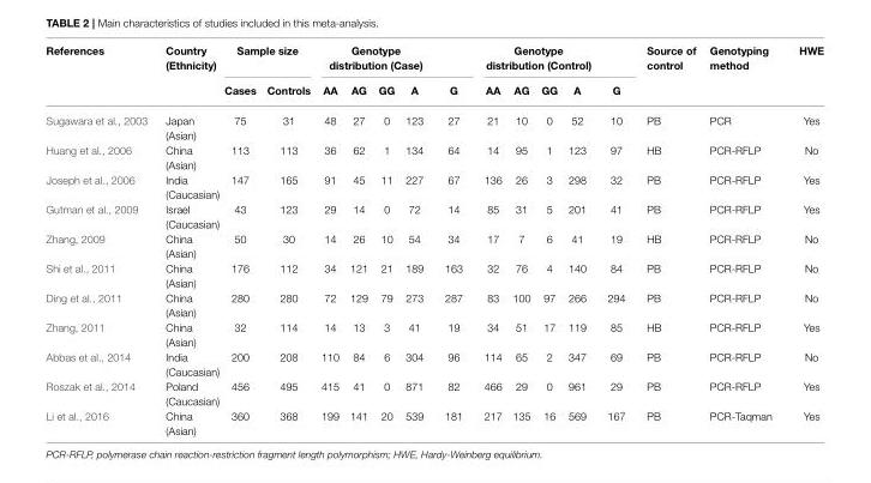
<table><thead><tr><td rowspan="2">References</td><td rowspan="2">Country (Ethnicity)</td><td colspan="2">Sample size</td><td colspan="5">Genotype distribution (Case)</td><td colspan="5">Genotype distribution (Control)</td><td rowspan="2">Source of control</td><td rowspan="2">Genotyping method</td><td rowspan="2">HWE</td></tr><tr><td>Cases</td><td>Controls</td><td>AA</td><td>AG</td><td>GG</td><td>A</td><td>G</td><td>AA</td><td>AG</td><td>GG</td><td>A</td><td>G</td></tr></thead><tbody><tr><td>Sugawara et al., 2003</td><td>Japan (Asian)</td><td>75</td><td>31</td><td>48</td><td>27</td><td>0</td><td>123</td><td>27</td><td>21</td><td>10</td><td>0</td><td>52</td><td>10</td><td>PB</td><td>PCR</td><td>Yes</td></tr><tr><td>Huang et al., 2006</td><td>China (Asian)</td><td>113</td><td>113</td><td>36</td><td>62</td><td>1</td><td>134</td><td>64</td><td>14</td><td>95</td><td>1</td><td>123</td><td>97</td><td>HB</td><td>PCR-RFLP</td><td>No</td></tr><tr><td>Joseph et al., 2006</td><td>India (Caucasian)</td><td>147</td><td>165</td><td>91</td><td>45</td><td>11</td><td>227</td><td>67</td><td>136</td><td>26</td><td>3</td><td>298</td><td>32</td><td>PB</td><td>PCR-RFLP</td><td>Yes</td></tr><tr><td>Gutman et al., 2009</td><td>Israel (Caucasian)</td><td>43</td><td>123</td><td>29</td><td>14</td><td>0</td><td>72</td><td>14</td><td>85</td><td>31</td><td>5</td><td>201</td><td>41</td><td>PB</td><td>PCR-RFLP</td><td>Yes</td></tr><tr><td>Zhang, 2009</td><td>China (Asian)</td><td>50</td><td>30</td><td>14</td><td>26</td><td>10</td><td>54</td><td>34</td><td>17</td><td>7</td><td>6</td><td>41</td><td>19</td><td>HB</td><td>PCR-RFLP</td><td>No</td></tr><tr><td>Shi et al., 2011</td><td>China (Asian)</td><td>176</td><td>112</td><td>34</td><td>121</td><td>21</td><td>189</td><td>163</td><td>32</td><td>76</td><td>4</td><td>140</td><td>84</td><td>PB</td><td>PCR-RFLP</td><td>No</td></tr><tr><td>Ding et al., 2011</td><td>China (Asian)</td><td>280</td><td>280</td><td>72</td><td>129</td><td>79</td><td>273</td><td>287</td><td>83</td><td>100</td><td>97</td><td>266</td><td>294</td><td>PB</td><td>PCR-RFLP</td><td>No</td></tr><tr><td>Zhang, 2011</td><td>China (Asian)</td><td>32</td><td>114</td><td>14</td><td>13</td><td>3</td><td>41</td><td>19</td><td>34</td><td>51</td><td>17</td><td>119</td><td>85</td><td>HB</td><td>PCR-RFLP</td><td>Yes</td></tr><tr><td>Abbas et al., 2014</td><td>India (Caucasian)</td><td>200</td><td>208</td><td>110</td><td>84</td><td>6</td><td>304</td><td>96</td><td>114</td><td>65</td><td>2</td><td>347</td><td>69</td><td>PB</td><td>PCR-RFLP</td><td>No</td></tr><tr><td>Roszak et al., 2014</td><td>Poland (Caucasian)</td><td>456</td><td>495</td><td>415</td><td>41</td><td>0</td><td>871</td><td>82</td><td>466</td><td>29</td><td>0</td><td>961</td><td>29</td><td>PB</td><td>PCR-RFLP</td><td>Yes</td></tr><tr><td>Li et al., 2016</td><td>China (Asian)</td><td>360</td><td>368</td><td>199</td><td>141</td><td>20</td><td>539</td><td>181</td><td>217</td><td>135</td><td>16</td><td>569</td><td>167</td><td>PB</td><td>PCR-Taqman</td><td>Yes</td></tr></tbody></table>